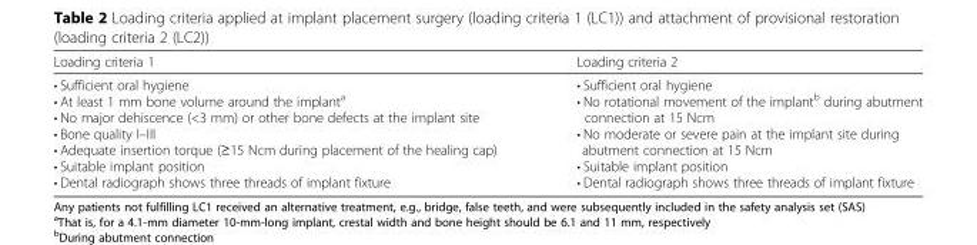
<table><thead><tr><td>Loading criteria 1</td><td>Loading criteria 2</td></tr></thead><tbody><tr><td>• Sufficient oral hygiene • At least 1 mm bone volume around the implant<sup>a</sup> • No major dehiscence (&lt;3 mm) or other bone defects at the implant site • Bone quality I–III • Adequate insertion torque (≥15 Ncm during placement of the healing cap) • Suitable implant position • Dental radiograph shows three threads of implant fixture</td><td>• Sufficient oral hygiene • No rotational movement of the implant<sup>b</sup> during abutment connection at 15 Ncm • No moderate or severe pain at the implant site during abutment connection at 15 Ncm • Suitable implant position • Dental radiograph shows three threads of implant fixture</td></tr></tbody></table>